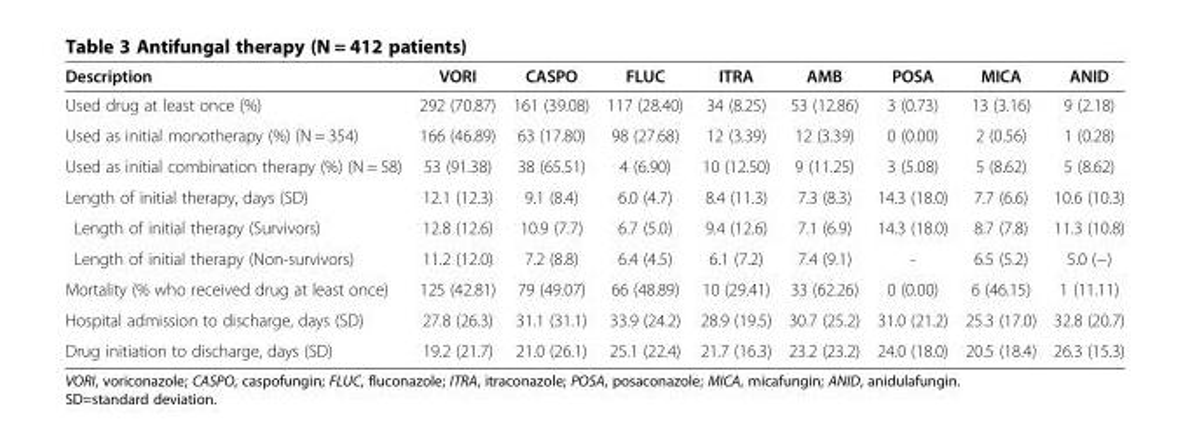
<table><thead><tr><td>Description</td><td>VORI</td><td>CASPO</td><td>FLUC</td><td>ITRA</td><td>AMB</td><td>POSA</td><td>MICA</td><td>ANID</td></tr></thead><tbody><tr><td>Used drug at least once (%)</td><td>292 (70.87)</td><td>161 (39.08)</td><td>117 (28.40)</td><td>34 (8.25)</td><td>53 (12.86)</td><td>3 (0.73)</td><td>13 (3.16)</td><td>9 (2.18)</td></tr><tr><td>Used as initial monotherapy (%) (N = 354)</td><td>166 (46.89)</td><td>63 (17.80)</td><td>98 (27.68)</td><td>12 (3.39)</td><td>12 (3.39)</td><td>0 (0.00)</td><td>2 (0.56)</td><td>1 (0.28)</td></tr><tr><td>Used as initial combination therapy (%) (N = 58)</td><td>53 (91.38)</td><td>38 (65.51)</td><td>4 (6.90)</td><td>10 (12.50)</td><td>9 (11.25)</td><td>3 (5.08)</td><td>5 (8.62)</td><td>5 (8.62)</td></tr><tr><td>Length of initial therapy, days (SD)</td><td>12.1 (12.3)</td><td>9.1 (8.4)</td><td>6.0 (4.7)</td><td>8.4 (11.3)</td><td>7.3 (8.3)</td><td>14.3 (18.0)</td><td>7.7 (6.6)</td><td>10.6 (10.3)</td></tr><tr><td>Length of initial therapy (Survivors)</td><td>12.8 (12.6)</td><td>10.9 (7.7)</td><td>6.7 (5.0)</td><td>9.4 (12.6)</td><td>7.1 (6.9)</td><td>14.3 (18.0)</td><td>8.7 (7.8)</td><td>11.3 (10.8)</td></tr><tr><td>Length of initial therapy (Non-survivors)</td><td>11.2 (12.0)</td><td>7.2 (8.8)</td><td>6.4 (4.5)</td><td>6.1 (7.2)</td><td>7.4 (9.1)</td><td>-</td><td>6.5 (5.2)</td><td>5.0 (−)</td></tr><tr><td>Mortality (% who received drug at least once)</td><td>125 (42.81)</td><td>79 (49.07)</td><td>66 (48.89)</td><td>10 (29.41)</td><td>33 (62.26)</td><td>0 (0.00)</td><td>6 (46.15)</td><td>1 (11.11)</td></tr><tr><td>Hospital admission to discharge, days (SD)</td><td>27.8 (26.3)</td><td>31.1 (31.1)</td><td>33.9 (24.2)</td><td>28.9 (19.5)</td><td>30.7 (25.2)</td><td>31.0 (21.2)</td><td>25.3 (17.0)</td><td>32.8 (20.7)</td></tr><tr><td>Drug initiation to discharge, days (SD)</td><td>19.2 (21.7)</td><td>21.0 (26.1)</td><td>25.1 (22.4)</td><td>21.7 (16.3)</td><td>23.2 (23.2)</td><td>24.0 (18.0)</td><td>20.5 (18.4)</td><td>26.3 (15.3)</td></tr></tbody></table>